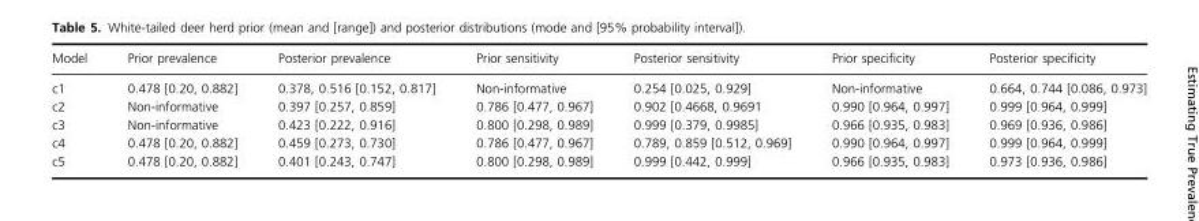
<table><thead><tr><td>Model</td><td>Prior prevalence</td><td>Posterior prevalence</td><td>Prior sensitivity</td><td>Posterior sensitivity</td><td>Prior specificity</td><td>Posterior specificity</td></tr></thead><tbody><tr><td>c1</td><td>0.478 [0.20, 0.882]</td><td>0.378, 0.516 [0.152, 0.817]</td><td>Non-informative</td><td>0.254 [0.025, 0.929]</td><td>Non-informative</td><td>0.664, 0.744 [0.086, 0.973]</td></tr><tr><td>c2</td><td>Non-informative</td><td>0.397 [0.257, 0.859]</td><td>0.786 [0.477, 0.967]</td><td>0.902 [0.4668, 0.9691</td><td>0.990 [0.964, 0.997]</td><td>0.999 [0.964, 0.999]</td></tr><tr><td>c3</td><td>Non-informative</td><td>0.423 [0.222, 0.916]</td><td>0.800 [0.298, 0.989]</td><td>0.999 [0.379, 0.9985]</td><td>0.966 [0.935, 0.983]</td><td>0.969 [0.936, 0.986]</td></tr><tr><td>c4</td><td>0.478 [0.20, 0.882]</td><td>0.459 [0.273, 0.730]</td><td>0.786 [0.477, 0.967]</td><td>0.789, 0.859 [0.512, 0.969]</td><td>0.990 [0.964, 0.997]</td><td>0.999 [0.964, 0.999]</td></tr><tr><td>c5</td><td>0.478 [0.20, 0.882]</td><td>0.401 [0.243, 0.747]</td><td>0.800 [0.298, 0.989]</td><td>0.999 [0.442, 0.999]</td><td>0.966 [0.935, 0.983]</td><td>0.973 [0.936, 0.986]</td></tr></tbody></table>